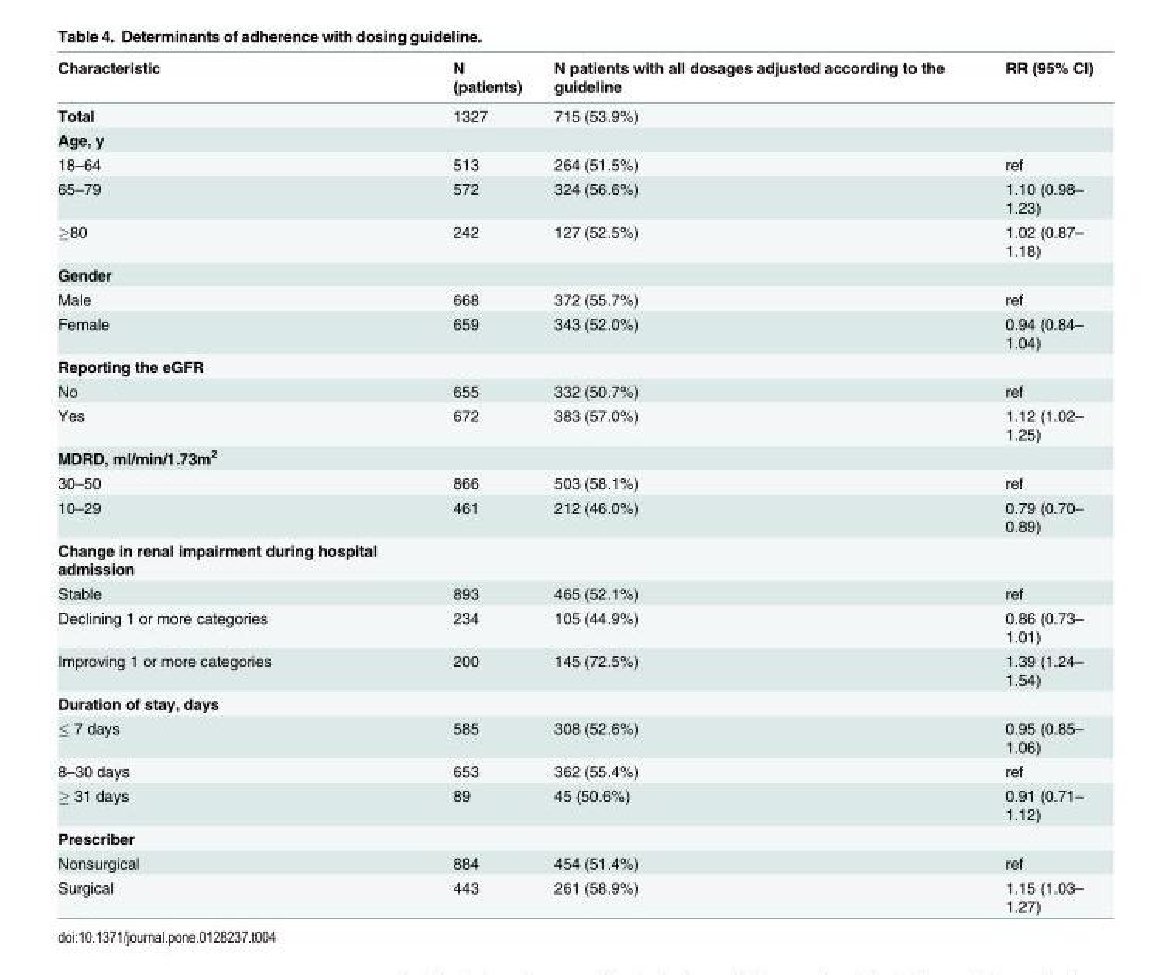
<table><thead><tr><td>Characteristic</td><td>N (patients)</td><td>N patients with all dosages adjusted according to the guideline</td><td>RR (95% CI)</td></tr></thead><tbody><tr><td>Total</td><td>1327</td><td>715 (53.9%)</td><td></td></tr><tr><td colspan="4">Age, y</td></tr><tr><td>18–64</td><td>513</td><td>264 (51.5%)</td><td>ref</td></tr><tr><td>65–79</td><td>572</td><td>324 (56.6%)</td><td>1.10 (0.98– 1.23)</td></tr><tr><td>≥80</td><td>242</td><td>127 (52.5%)</td><td>1.02 (0.87– 1.18)</td></tr><tr><td colspan="4">Gender</td></tr><tr><td>Male</td><td>668</td><td>372 (55.7%)</td><td>ref</td></tr><tr><td>Female</td><td>659</td><td>343 (52.0%)</td><td>0.94 (0.84– 1.04)</td></tr><tr><td colspan="4">Reporting the eGFR</td></tr><tr><td>No</td><td>655</td><td>332 (50.7%)</td><td>ref</td></tr><tr><td>Yes</td><td>672</td><td>383 (57.0%)</td><td>1.12 (1.02– 1.25)</td></tr><tr><td colspan="4">MDRD, ml/min/1.73m<sup>2</sup></td></tr><tr><td>30–50</td><td>866</td><td>503 (58.1%)</td><td>ref</td></tr><tr><td>10–29</td><td>461</td><td>212 (46.0%)</td><td>0.79 (0.70– 0.89)</td></tr><tr><td colspan="4">Change in renal impairment during hospital admission</td></tr><tr><td>Stable</td><td>893</td><td>465 (52.1%)</td><td>ref</td></tr><tr><td>Declining 1 or more categories</td><td>234</td><td>105 (44.9%)</td><td>0.86 (0.73– 1.01)</td></tr><tr><td>Improving 1 or more categories</td><td>200</td><td>145 (72.5%)</td><td>1.39 (1.24– 1.54)</td></tr><tr><td colspan="4">Duration of stay, days</td></tr><tr><td>≤ 7 days</td><td>585</td><td>308 (52.6%)</td><td>0.95 (0.85– 1.06)</td></tr><tr><td>8–30 days</td><td>653</td><td>362 (55.4%)</td><td>ref</td></tr><tr><td>≥ 31 days</td><td>89</td><td>45 (50.6%)</td><td>0.91 (0.71– 1.12)</td></tr><tr><td colspan="4">Prescriber</td></tr><tr><td>Nonsurgical</td><td>884</td><td>454 (51.4%)</td><td>ref</td></tr><tr><td>Surgical</td><td>443</td><td>261 (58.9%)</td><td>1.15 (1.03– 1.27)</td></tr></tbody></table>